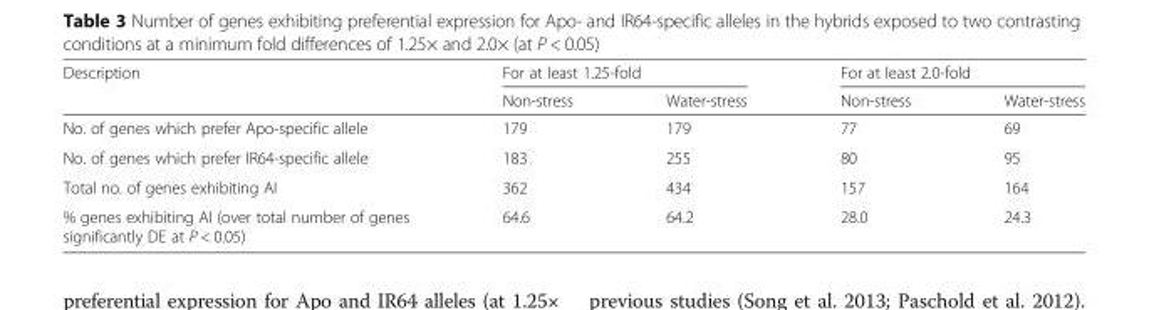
<table><thead><tr><td rowspan="2">Description</td><td colspan="2">For at least 1.25-fold</td><td colspan="2">For at least 2.0-fold</td></tr><tr><td>Non-stress</td><td>Water-stress</td><td>Non-stress</td><td>Water-stress</td></tr></thead><tbody><tr><td>No. of genes which prefer Apo-specific allele</td><td>179</td><td>179</td><td>77</td><td>69</td></tr><tr><td>No. of genes which prefer IR64-specific allele</td><td>183</td><td>255</td><td>80</td><td>95</td></tr><tr><td>Total no. of genes exhibiting AI</td><td>362</td><td>434</td><td>157</td><td>164</td></tr><tr><td>% genes exhibiting AI (over total number of genes significantly DE at P &lt; 0.05)</td><td>64.6</td><td>64.2</td><td>28.0</td><td>24.3</td></tr></tbody></table>